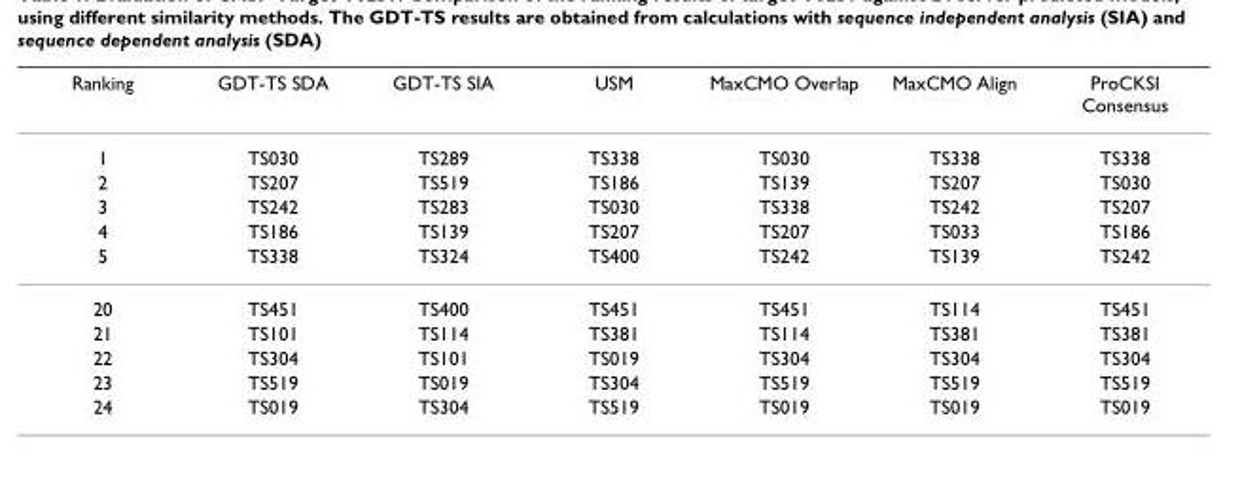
<table><thead><tr><td>Ranking</td><td>GDT-TS SDA</td><td>GDT-TS SIA</td><td>USM</td><td>MaxCMO Overlap</td><td>MaxCMO Align</td><td>ProCKSI Consensus</td></tr></thead><tbody><tr><td>1</td><td>TS030</td><td>TS289</td><td>TS338</td><td>TS030</td><td>TS338</td><td>TS338</td></tr><tr><td>2</td><td>TS207</td><td>TS519</td><td>TS186</td><td>TS139</td><td>TS207</td><td>TS030</td></tr><tr><td>3</td><td>TS242</td><td>TS283</td><td>TS030</td><td>TS338</td><td>TS242</td><td>TS207</td></tr><tr><td>4</td><td>TS186</td><td>TS139</td><td>TS207</td><td>TS207</td><td>TS033</td><td>TS186</td></tr><tr><td>5</td><td>TS338</td><td>TS324</td><td>TS400</td><td>TS242</td><td>TS139</td><td>TS242</td></tr><tr><td>20</td><td>TS451</td><td>TS400</td><td>TS451</td><td>TS451</td><td>TS114</td><td>TS451</td></tr><tr><td>21</td><td>TS101</td><td>TS114</td><td>TS381</td><td>TS114</td><td>TS381</td><td>TS381</td></tr><tr><td>22</td><td>TS304</td><td>TS101</td><td>TS019</td><td>TS304</td><td>TS304</td><td>TS304</td></tr><tr><td>23</td><td>TS519</td><td>TS019</td><td>TS304</td><td>TS519</td><td>TS519</td><td>TS519</td></tr><tr><td>24</td><td>TS019</td><td>TS304</td><td>TS519</td><td>TS019</td><td>TS019</td><td>TS019</td></tr></tbody></table>